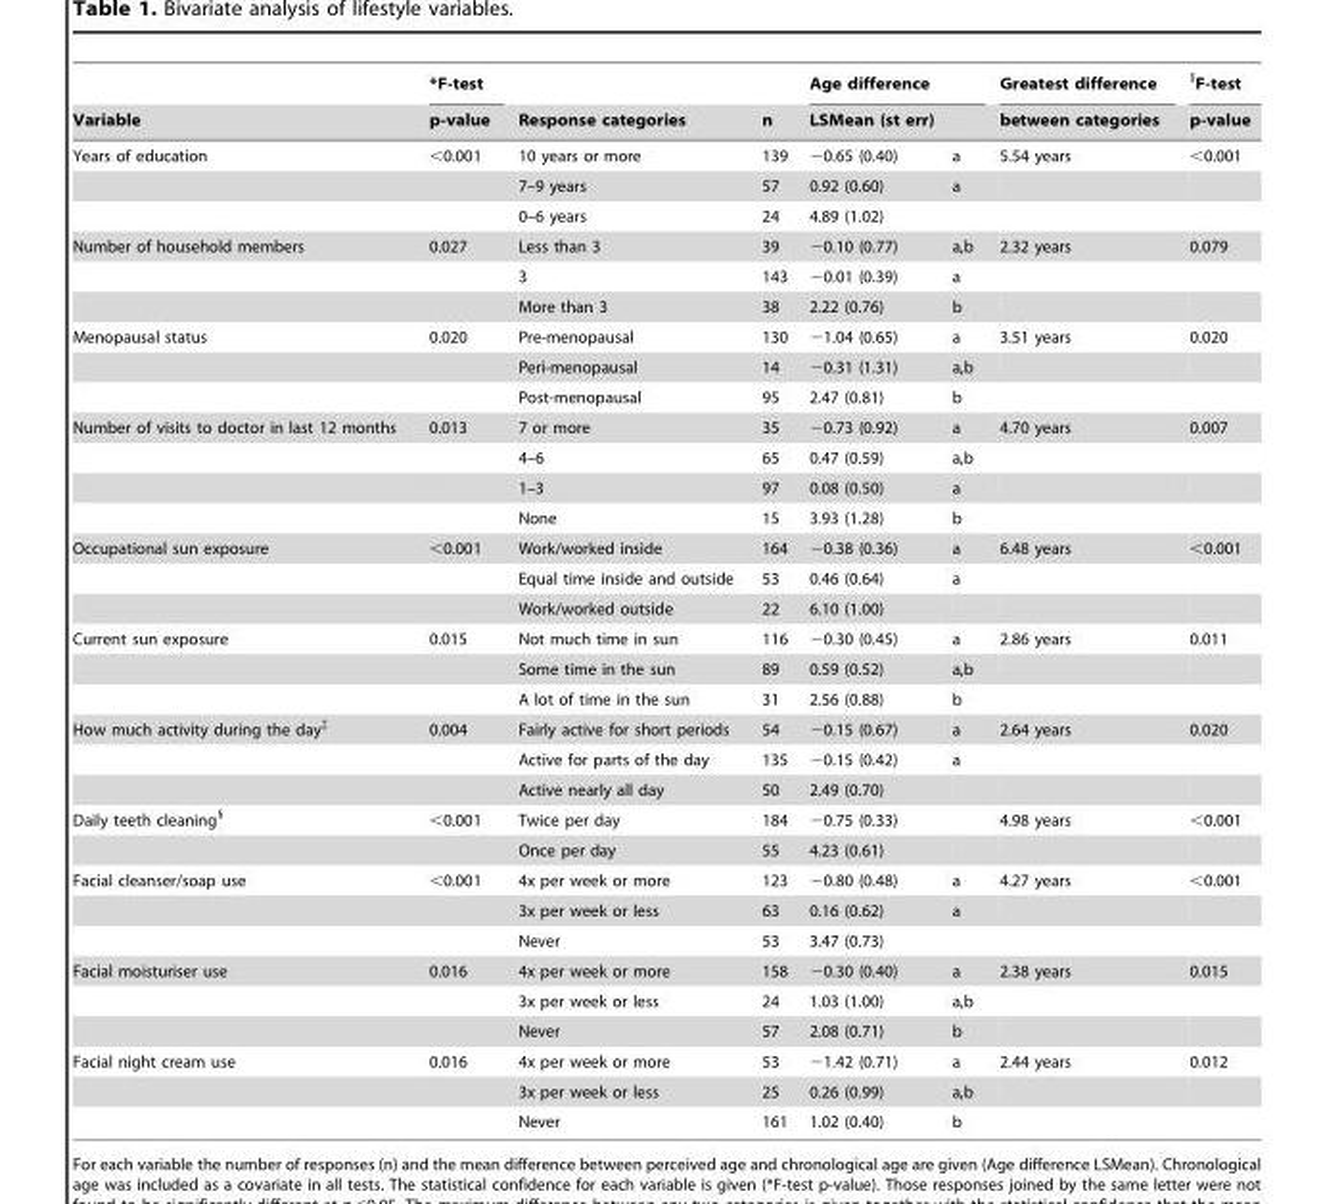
<table><thead><tr><td rowspan="3">Variable Years of education</td><td rowspan="3">*F-test p-value &lt;0.001</td><td rowspan="3">Response categories 10 years or more</td><td rowspan="3">n 139</td><td rowspan="2" colspan="2">Age difference LSMean (st err)</td><td rowspan="3">Greatest difference between categories 5.54 years</td><td rowspan="3">$F-test p-value &lt;0.001</td></tr><tr></tr><tr><td>−0.65 (0.40)</td><td>a</td></tr></thead><tbody><tr><td></td><td></td><td>7–9 years</td><td>57</td><td>0.92 (0.60)</td><td>a</td><td></td><td></td></tr><tr><td></td><td></td><td>0–6 years</td><td>24</td><td>4.89 (1.02)</td><td></td><td></td><td></td></tr><tr><td rowspan="3">Number of household members</td><td>0.027</td><td>Less than 3</td><td>39</td><td>−0.10 (0.77)</td><td>a,b</td><td>2.32 years</td><td>0.079</td></tr><tr><td></td><td>3</td><td>143</td><td>−0.01 (0.39)</td><td>a</td><td></td><td></td></tr><tr><td></td><td>More than 3</td><td>38</td><td>2.22 (0.76)</td><td>b</td><td></td><td></td></tr><tr><td rowspan="3">Menopausal status</td><td>0.020</td><td>Pre-menopausal</td><td>130</td><td>−1.04 (0.65)</td><td>a</td><td>3.51 years</td><td>0.020</td></tr><tr><td></td><td>Peri-menopausal</td><td>14</td><td>−0.31 (1.31)</td><td>a,b</td><td></td><td></td></tr><tr><td></td><td>Post-menopausal</td><td>95</td><td>2.47 (0.81)</td><td>b</td><td></td><td></td></tr><tr><td rowspan="4">Number of visits to doctor in last 12 months</td><td>0.013</td><td>7 or more</td><td>35</td><td>−0.73 (0.92)</td><td>a</td><td>4.70 years</td><td>0.007</td></tr><tr><td></td><td>4–6</td><td>65</td><td>0.47 (0.59)</td><td>a,b</td><td></td><td></td></tr><tr><td></td><td>1–3</td><td>97</td><td>0.08 (0.50)</td><td>a</td><td></td><td></td></tr><tr><td></td><td>None</td><td>15</td><td>3.93 (1.28)</td><td>b</td><td></td><td></td></tr><tr><td rowspan="3">Occupational sun exposure</td><td>&lt;0.001</td><td>Work/worked inside</td><td>164</td><td>−0.38 (0.36)</td><td>a</td><td>6.48 years</td><td>&lt;0.001</td></tr><tr><td></td><td>Equal time inside and outside</td><td>53</td><td>0.46 (0.64)</td><td>a</td><td></td><td></td></tr><tr><td></td><td>Work/worked outside</td><td>22</td><td>6.10 (1.00)</td><td></td><td></td><td></td></tr><tr><td rowspan="3">Current sun exposure</td><td>0.015</td><td>Not much time in sun</td><td>116</td><td>−0.30 (0.45)</td><td>a</td><td>2.86 years</td><td>0.011</td></tr><tr><td></td><td>Some time in the sun</td><td>89</td><td>0.59 (0.52)</td><td>a,b</td><td></td><td></td></tr><tr><td></td><td>A lot of time in the sun</td><td>31</td><td>2.56 (0.88)</td><td>b</td><td></td><td></td></tr><tr><td rowspan="3">How much activity during the day‡</td><td>0.004</td><td>Fairly active for short periods</td><td>54</td><td>−0.15 (0.67)</td><td>a</td><td>2.64 years</td><td>0.020</td></tr><tr><td></td><td>Active for parts of the day</td><td>135</td><td>−0.15 (0.42)</td><td>a</td><td></td><td></td></tr><tr><td></td><td>Active nearly all day</td><td>50</td><td>2.49 (0.70)</td><td></td><td></td><td></td></tr><tr><td rowspan="2">Daily teeth cleaning§</td><td>&lt;0.001</td><td>Twice per day</td><td>184</td><td>−0.75 (0.33)</td><td></td><td>4.98 years</td><td>&lt;0.001</td></tr><tr><td></td><td>Once per day</td><td>55</td><td>4.23 (0.61)</td><td></td><td></td><td></td></tr><tr><td rowspan="3">Facial cleanser/soap use</td><td>&lt;0.001</td><td>4x per week or more</td><td>123</td><td>−0.80 (0.48)</td><td>a</td><td>4.27 years</td><td>&lt;0.001</td></tr><tr><td></td><td>3x per week or less</td><td>63</td><td>0.16 (0.62)</td><td>a</td><td></td><td></td></tr><tr><td></td><td>Never</td><td>53</td><td>3.47 (0.73)</td><td></td><td></td><td></td></tr><tr><td rowspan="3">Facial moisturiser use</td><td>0.016</td><td>4x per week or more</td><td>158</td><td>−0.30 (0.40)</td><td>a</td><td>2.38 years</td><td>0.015</td></tr><tr><td></td><td>3x per week or less</td><td>24</td><td>1.03 (1.00)</td><td>a,b</td><td></td><td></td></tr><tr><td></td><td>Never</td><td>57</td><td>2.08 (0.71)</td><td>b</td><td></td><td></td></tr><tr><td rowspan="3">Facial night cream use</td><td>0.016</td><td>4x per week or more</td><td>53</td><td>−1.42 (0.71)</td><td>a</td><td>2.44 years</td><td>0.012</td></tr><tr><td></td><td>3x per week or less</td><td>25</td><td>0.26 (0.99)</td><td>a,b</td><td></td><td></td></tr><tr><td></td><td>Never</td><td>161</td><td>1.02 (0.40)</td><td>b</td><td></td><td></td></tr></tbody></table>